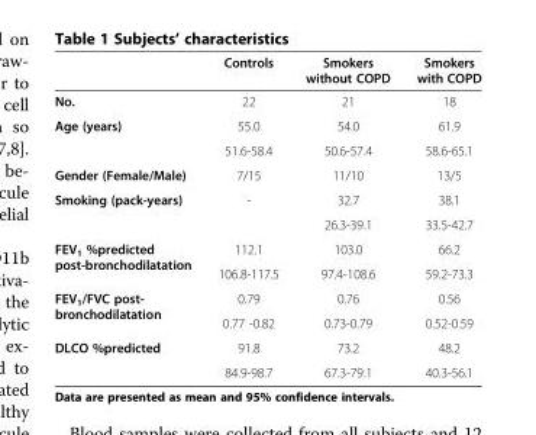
<table><thead><tr><td></td><td>Controls</td><td>Smokers without COPD</td><td>Smokers with COPD</td></tr></thead><tbody><tr><td>No.</td><td>22</td><td>21</td><td>18</td></tr><tr><td rowspan="2">Age (years)</td><td>55.0</td><td>54.0</td><td>61.9</td></tr><tr><td>51.6-58.4</td><td>50.6-57.4</td><td>58.6-65.1</td></tr><tr><td>Gender (Female/Male)</td><td>7/15</td><td>11/10</td><td>13/5</td></tr><tr><td rowspan="2">Smoking (pack-years)</td><td rowspan="2">-</td><td>32.7</td><td>38.1</td></tr><tr><td>26.3-39.1</td><td>33.5-42.7</td></tr><tr><td rowspan="2">FEV<sub>1</sub> %predicted post-bronchodilatation</td><td>112.1</td><td>103.0</td><td>66.2</td></tr><tr><td>106.8-117.5</td><td>97.4-108.6</td><td>59.2-73.3</td></tr><tr><td rowspan="2">FEV<sub>1</sub>/FVC post- bronchodilatation</td><td>0.79</td><td>0.76</td><td>0.56</td></tr><tr><td>0.77 -0.82</td><td>0.73-0.79</td><td>0.52-0.59</td></tr><tr><td rowspan="2">DLCO %predicted</td><td>91.8</td><td>73.2</td><td>48.2</td></tr><tr><td>84.9-98.7</td><td>67.3-79.1</td><td>40.3-56.1</td></tr></tbody></table>